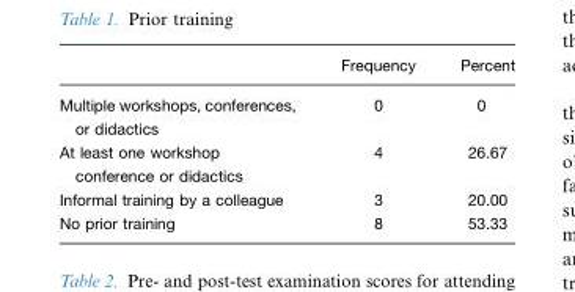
<table><thead><tr><td></td><td>Frequency</td><td>Percent</td></tr></thead><tbody><tr><td>Multiple workshops, conferences, or didactics</td><td>0</td><td>0</td></tr><tr><td>At least one workshop conference or didactics</td><td>4</td><td>26.67</td></tr><tr><td>Informal training by a colleague</td><td>3</td><td>20.00</td></tr><tr><td>No prior training</td><td>8</td><td>53.33</td></tr></tbody></table>